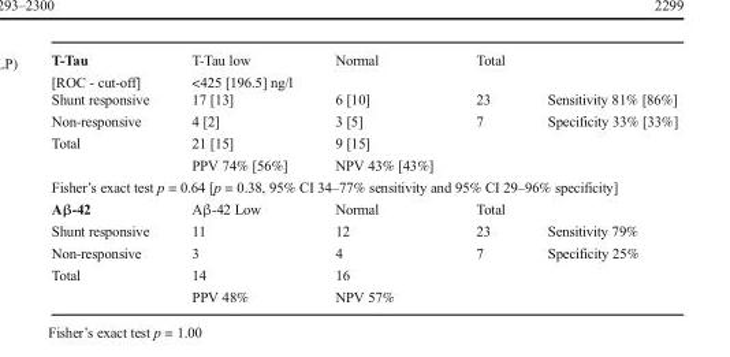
<table><tbody><tr><td>T-Tau [ROC - cut-off]</td><td>T-Tau low &lt;425 [196.5] ng/l</td><td>Normal</td><td>Total</td><td></td></tr><tr><td>Shunt responsive</td><td>17 [13]</td><td>6 [10]</td><td>23</td><td>Sensitivity 81% [86%]</td></tr><tr><td>Non-responsive</td><td>4 [2]</td><td>3 [5]</td><td>7</td><td>Specificity 33% [33%]</td></tr><tr><td rowspan="2">Total</td><td>21 [15]</td><td>9 [15]</td><td></td><td></td></tr><tr><td>PPV 74% [56%]</td><td>NPV 43% [43%]</td><td></td><td></td></tr><tr><td colspan="5">Fisher’s exact test p = 0.64 [p = 0.38, 95% CI 34–77% sensitivity and 95% CI 29–96% specificity]</td></tr><tr><td>Aβ-42</td><td>Aβ-42 Low</td><td>Normal</td><td>Total</td><td></td></tr><tr><td>Shunt responsive</td><td>11</td><td>12</td><td>23</td><td>Sensitivity 79%</td></tr><tr><td>Non-responsive</td><td>3</td><td>4</td><td>7</td><td>Specificity 25%</td></tr><tr><td rowspan="2">Total</td><td>14</td><td>16</td><td></td><td></td></tr><tr><td>PPV 48%</td><td>NPV 57%</td><td></td><td></td></tr></tbody></table>